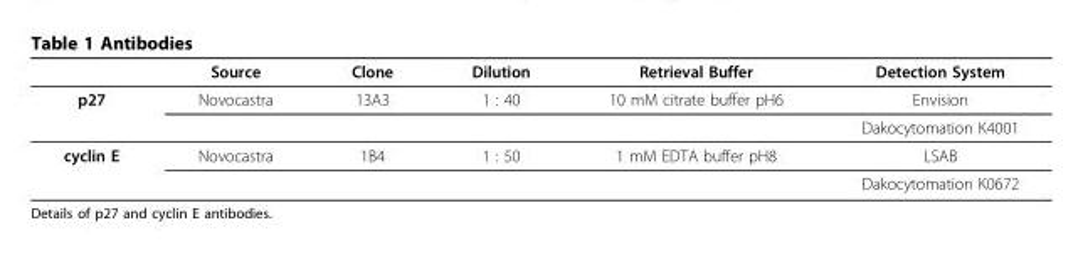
<table><thead><tr><td></td><td>Source</td><td>Clone</td><td>Dilution</td><td>Retrieval Buffer</td><td>Detection System</td></tr></thead><tbody><tr><td rowspan="2">p27</td><td>Novocastra</td><td>13A3</td><td>1 : 40</td><td>10 mM citrate buffer pH6</td><td>Envision</td></tr><tr><td></td><td></td><td></td><td></td><td>Dakocytomation K4001</td></tr><tr><td rowspan="2">cyclin E</td><td>Novocastra</td><td>1B4</td><td>1 : 50</td><td>1 mM EDTA buffer pH8</td><td>LSAB</td></tr><tr><td></td><td></td><td></td><td></td><td>Dakocytomation K0672</td></tr></tbody></table>